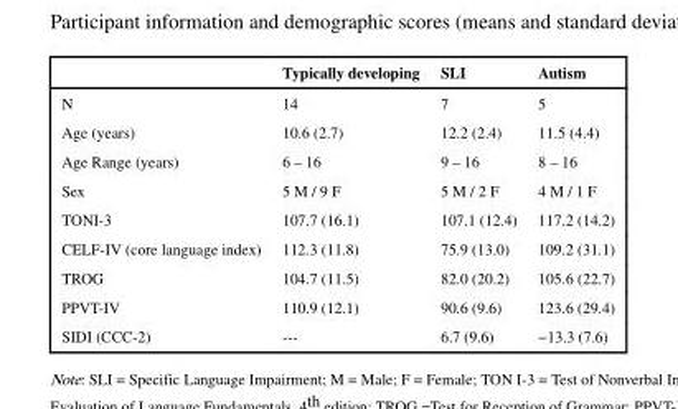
<table><thead><tr><td></td><td>Typically developing</td><td>SLI</td><td>Autism</td></tr></thead><tbody><tr><td>N</td><td>14</td><td>7</td><td>5</td></tr><tr><td>Age (years)</td><td>10.6 (2.7)</td><td>12.2 (2.4)</td><td>11.5 (4.4)</td></tr><tr><td>Age Range (years)</td><td>6 – 16</td><td>9 – 16</td><td>8 – 16</td></tr><tr><td>Sex</td><td>5 M / 9 F</td><td>5 M / 2 F</td><td>4 M / 1 F</td></tr><tr><td>TONI-3</td><td>107.7 (16.1)</td><td>107.1 (12.4)</td><td>117.2 (14.2)</td></tr><tr><td>CELF-IV (core language index)</td><td>112.3 (11.8)</td><td>75.9 (13.0)</td><td>109.2 (31.1)</td></tr><tr><td>TROG</td><td>104.7 (11.5)</td><td>82.0 (20.2)</td><td>105.6 (22.7)</td></tr><tr><td>PPVT-IV</td><td>110.9 (12.1)</td><td>90.6 (9.6)</td><td>123.6 (29.4)</td></tr><tr><td>SIDI (CCC-2)</td><td>---</td><td>6.7 (9.6)</td><td>−13.3 (7.6)</td></tr></tbody></table>